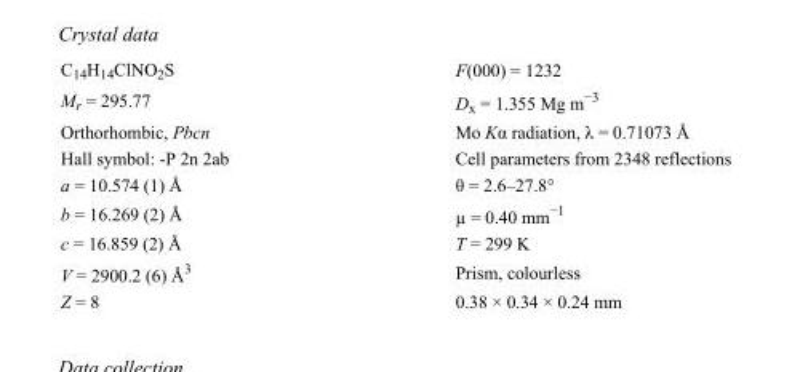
<table><tbody><tr><td>C<sub>14</sub>H<sub>14</sub>ClNO<sub>2</sub>S</td><td>F(000) = 1232</td></tr><tr><td>M<sub>r</sub> = 295.77</td><td>D<sub>x</sub> = 1.355 Mg m<sup>−3</sup></td></tr><tr><td>Orthorhombic, Pbcn</td><td>Mo Kα radiation, λ = 0.71073 Å</td></tr><tr><td>Hall symbol: -P 2n 2ab</td><td>Cell parameters from 2348 reflections</td></tr><tr><td>a = 10.574 (1) Å</td><td>θ = 2.6–27.8°</td></tr><tr><td>b = 16.269 (2) Å</td><td>µ = 0.40 mm<sup>−1</sup></td></tr><tr><td>c = 16.859 (2) Å</td><td>T = 299 K</td></tr><tr><td>V = 2900.2 (6) Å<sup>3</sup></td><td>Prism, colourless</td></tr><tr><td>Z = 8</td><td>0.38 × 0.34 × 0.24 mm</td></tr></tbody></table>